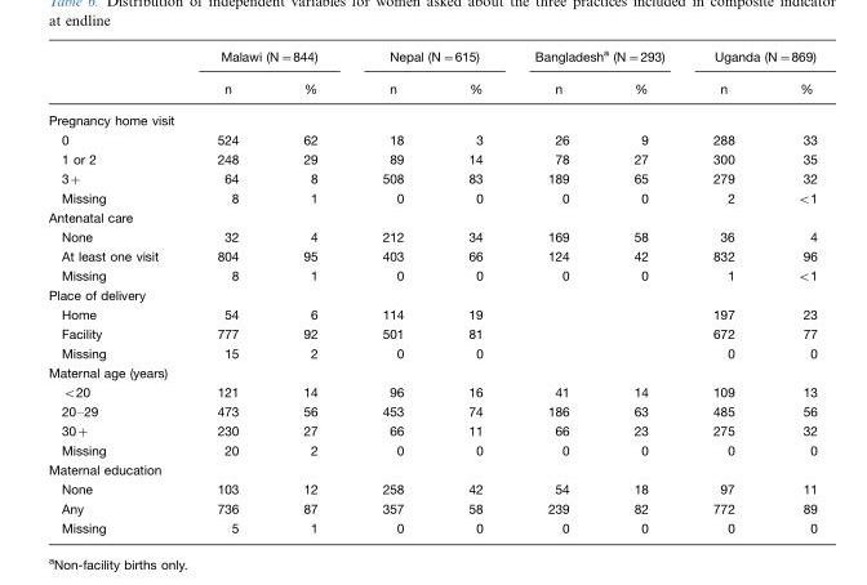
<table><thead><tr><td rowspan="2"></td><td colspan="2">Malawi (N=844)</td><td colspan="2">Nepal (N=615)</td><td colspan="2">Bangladesh<sup>a</sup> (N=293)</td><td colspan="2">Uganda (N=869)</td></tr><tr><td>n</td><td>%</td><td>n</td><td>%</td><td>n</td><td>%</td><td>n</td><td>%</td></tr></thead><tbody><tr><td colspan="9">Pregnancy home visit</td></tr><tr><td>0</td><td>524</td><td>62</td><td>18</td><td>3</td><td>26</td><td>9</td><td>288</td><td>33</td></tr><tr><td>1 or 2</td><td>248</td><td>29</td><td>89</td><td>14</td><td>78</td><td>27</td><td>300</td><td>35</td></tr><tr><td>3+</td><td>64</td><td>8</td><td>508</td><td>83</td><td>189</td><td>65</td><td>279</td><td>32</td></tr><tr><td>Missing</td><td>8</td><td>1</td><td>0</td><td>0</td><td>0</td><td>0</td><td>2</td><td>&lt;1</td></tr><tr><td colspan="9">Antenatal care</td></tr><tr><td>None</td><td>32</td><td>4</td><td>212</td><td>34</td><td>169</td><td>58</td><td>36</td><td>4</td></tr><tr><td>At least one visit</td><td>804</td><td>95</td><td>403</td><td>66</td><td>124</td><td>42</td><td>832</td><td>96</td></tr><tr><td>Missing</td><td>8</td><td>1</td><td>0</td><td>0</td><td>0</td><td>0</td><td>1</td><td>&lt;1</td></tr><tr><td colspan="9">Place of delivery</td></tr><tr><td>Home</td><td>54</td><td>6</td><td>114</td><td>19</td><td></td><td></td><td>197</td><td>23</td></tr><tr><td>Facility</td><td>777</td><td>92</td><td>501</td><td>81</td><td></td><td></td><td>672</td><td>77</td></tr><tr><td>Missing</td><td>15</td><td>2</td><td>0</td><td>0</td><td></td><td></td><td>0</td><td>0</td></tr><tr><td colspan="9">Maternal age (years)</td></tr><tr><td>&lt;20</td><td>121</td><td>14</td><td>96</td><td>16</td><td>41</td><td>14</td><td>109</td><td>13</td></tr><tr><td>20–29</td><td>473</td><td>56</td><td>453</td><td>74</td><td>186</td><td>63</td><td>485</td><td>56</td></tr><tr><td>30+</td><td>230</td><td>27</td><td>66</td><td>11</td><td>66</td><td>23</td><td>275</td><td>32</td></tr><tr><td>Missing</td><td>20</td><td>2</td><td>0</td><td>0</td><td>0</td><td>0</td><td>0</td><td>0</td></tr><tr><td colspan="9">Maternal education</td></tr><tr><td>None</td><td>103</td><td>12</td><td>258</td><td>42</td><td>54</td><td>18</td><td>97</td><td>11</td></tr><tr><td>Any</td><td>736</td><td>87</td><td>357</td><td>58</td><td>239</td><td>82</td><td>772</td><td>89</td></tr><tr><td>Missing</td><td>5</td><td>1</td><td>0</td><td>0</td><td>0</td><td>0</td><td>0</td><td>0</td></tr></tbody></table>